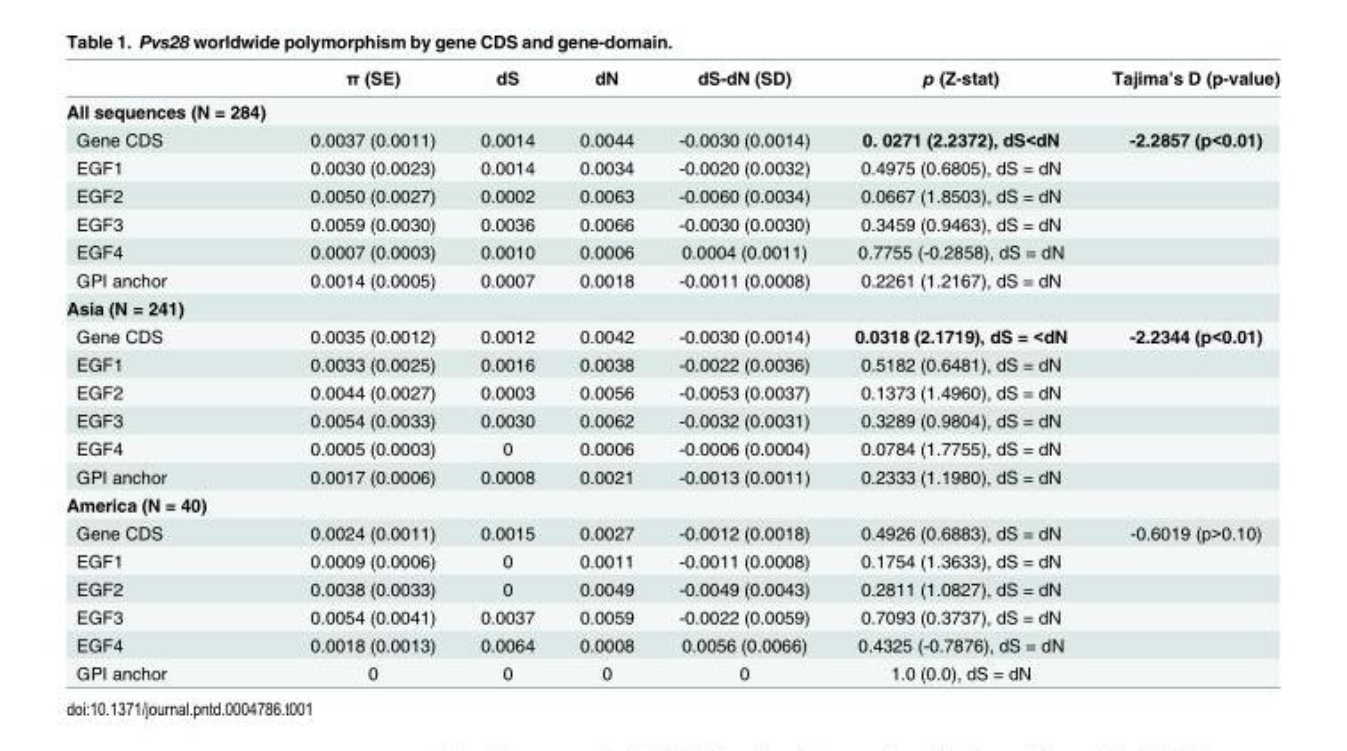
<table><thead><tr><td></td><td>π (SE)</td><td>dS</td><td>dN</td><td>dS-dN (SD)</td><td>p (Z-stat)</td><td>Tajima’s D (p-value)</td></tr></thead><tbody><tr><td colspan="7">All sequences (N = 284)</td></tr><tr><td>Gene CDS</td><td>0.0037 (0.0011)</td><td>0.0014</td><td>0.0044</td><td>-0.0030 (0.0014)</td><td>0. 0271 (2.2372), dS&lt;dN</td><td>-2.2857 (p&lt;0.01)</td></tr><tr><td>EGF1</td><td>0.0030 (0.0023)</td><td>0.0014</td><td>0.0034</td><td>-0.0020 (0.0032)</td><td>0.4975 (0.6805), dS = dN</td><td></td></tr><tr><td>EGF2</td><td>0.0050 (0.0027)</td><td>0.0002</td><td>0.0063</td><td>-0.0060 (0.0034)</td><td>0.0667 (1.8503), dS = dN</td><td></td></tr><tr><td>EGF3</td><td>0.0059 (0.0030)</td><td>0.0036</td><td>0.0066</td><td>-0.0030 (0.0030)</td><td>0.3459 (0.9463), dS = dN</td><td></td></tr><tr><td>EGF4</td><td>0.0007 (0.0003)</td><td>0.0010</td><td>0.0006</td><td>0.0004 (0.0011)</td><td>0.7755 (-0.2858), dS = dN</td><td></td></tr><tr><td>GPI anchor</td><td>0.0014 (0.0005)</td><td>0.0007</td><td>0.0018</td><td>-0.0011 (0.0008)</td><td>0.2261 (1.2167), dS = dN</td><td></td></tr><tr><td colspan="7">Asia (N = 241)</td></tr><tr><td>Gene CDS</td><td>0.0035 (0.0012)</td><td>0.0012</td><td>0.0042</td><td>-0.0030 (0.0014)</td><td>0.0318 (2.1719), dS = &lt;dN</td><td>-2.2344 (p&lt;0.01)</td></tr><tr><td>EGF1</td><td>0.0033 (0.0025)</td><td>0.0016</td><td>0.0038</td><td>-0.0022 (0.0036)</td><td>0.5182 (0.6481), dS = dN</td><td></td></tr><tr><td>EGF2</td><td>0.0044 (0.0027)</td><td>0.0003</td><td>0.0056</td><td>-0.0053 (0.0037)</td><td>0.1373 (1.4960), dS = dN</td><td></td></tr><tr><td>EGF3</td><td>0.0054 (0.0033)</td><td>0.0030</td><td>0.0062</td><td>-0.0032 (0.0031)</td><td>0.3289 (0.9804), dS = dN</td><td></td></tr><tr><td>EGF4</td><td>0.0005 (0.0003)</td><td>0</td><td>0.0006</td><td>-0.0006 (0.0004)</td><td>0.0784 (1.7755), dS = dN</td><td></td></tr><tr><td>GPI anchor</td><td>0.0017 (0.0006)</td><td>0.0008</td><td>0.0021</td><td>-0.0013 (0.0011)</td><td>0.2333 (1.1980), dS = dN</td><td></td></tr><tr><td colspan="7">America (N = 40)</td></tr><tr><td>Gene CDS</td><td>0.0024 (0.0011)</td><td>0.0015</td><td>0.0027</td><td>-0.0012 (0.0018)</td><td>0.4926 (0.6883), dS = dN</td><td>-0.6019 (p&gt;0.10)</td></tr><tr><td>EGF1</td><td>0.0009 (0.0006)</td><td>0</td><td>0.0011</td><td>-0.0011 (0.0008)</td><td>0.1754 (1.3633), dS = dN</td><td></td></tr><tr><td>EGF2</td><td>0.0038 (0.0033)</td><td>0</td><td>0.0049</td><td>-0.0049 (0.0043)</td><td>0.2811 (1.0827), dS = dN</td><td></td></tr><tr><td>EGF3</td><td>0.0054 (0.0041)</td><td>0.0037</td><td>0.0059</td><td>-0.0022 (0.0059)</td><td>0.7093 (0.3737), dS = dN</td><td></td></tr><tr><td>EGF4</td><td>0.0018 (0.0013)</td><td>0.0064</td><td>0.0008</td><td>0.0056 (0.0066)</td><td>0.4325 (-0.7876), dS = dN</td><td></td></tr><tr><td>GPI anchor</td><td>0</td><td>0</td><td>0</td><td>0</td><td>1.0 (0.0), dS = dN</td><td></td></tr></tbody></table>